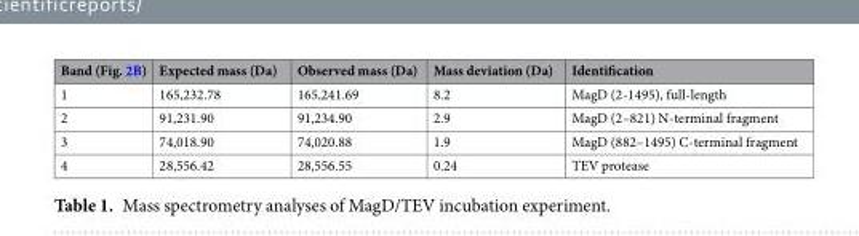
<table><thead><tr><td>Band (Fig. 2B)</td><td>Expected mass (Da)</td><td>Observed mass (Da)</td><td>Mass deviation (Da)</td><td>Identification</td></tr></thead><tbody><tr><td>1</td><td>165,232.78</td><td>165,241.69</td><td>8.2</td><td>MagD (2-1495), full-length</td></tr><tr><td>2</td><td>91,231.90</td><td>91,234.90</td><td>2.9</td><td>MagD (2–821) N-terminal fragment</td></tr><tr><td>3</td><td>74,018.90</td><td>74,020.88</td><td>1.9</td><td>MagD (882–1495) C-terminal fragment</td></tr><tr><td>4</td><td>28,556.42</td><td>28,556.55</td><td>0.24</td><td>TEV protease</td></tr></tbody></table>